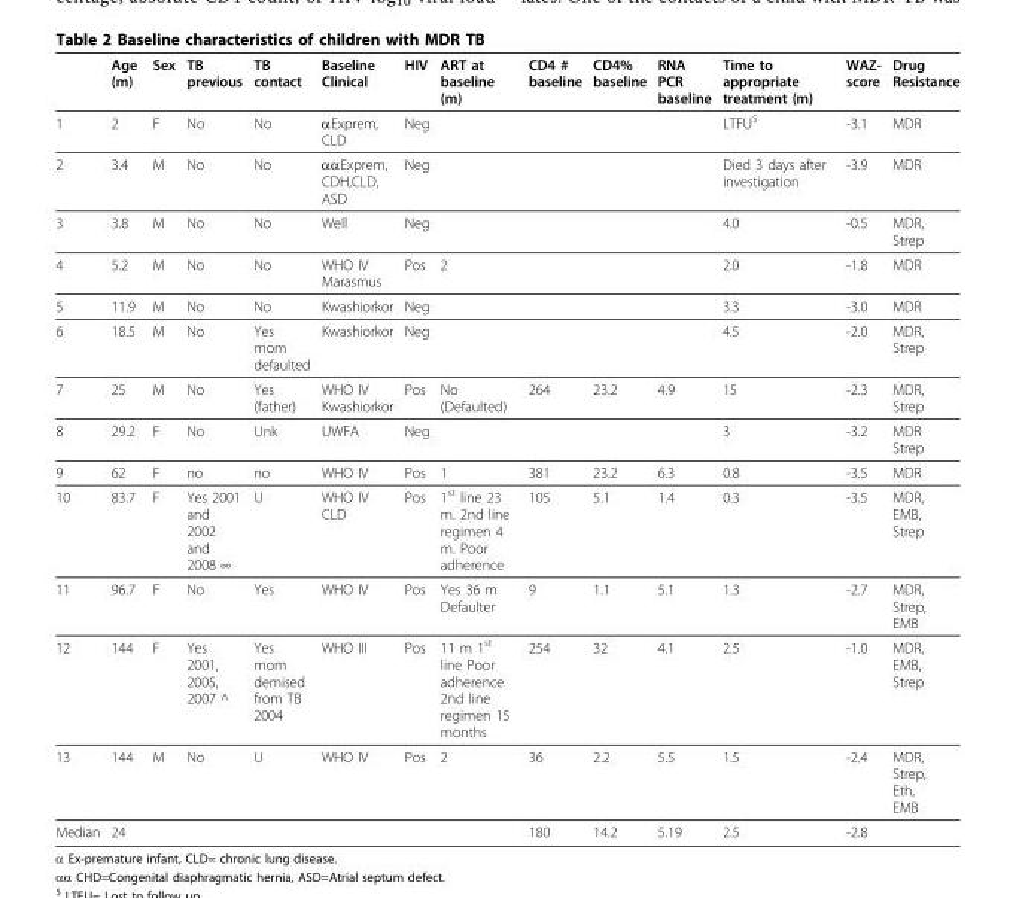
<table><thead><tr><td></td><td>Age (m)</td><td>Sex</td><td>TB previous</td><td>TB contact</td><td>Baseline Clinical</td><td>HIV</td><td>ART at baseline (m)</td><td>CD4 # baseline</td><td>CD4% baseline</td><td>RNA PCR baseline</td><td>Time to appropriate treatment (m)</td><td>WAZ- score</td><td>Drug Resistance</td></tr></thead><tbody><tr><td>1</td><td>2</td><td>F</td><td>No</td><td>No</td><td>αExprem, CLD</td><td>Neg</td><td></td><td></td><td></td><td></td><td>LTFU<sup>$</sup></td><td>-3.1</td><td>MDR</td></tr><tr><td>2</td><td>3.4</td><td>M</td><td>No</td><td>No</td><td>ααExprem, CDH,CLD, ASD</td><td>Neg</td><td></td><td></td><td></td><td></td><td>Died 3 days after investigation</td><td>-3.9</td><td>MDR</td></tr><tr><td>3</td><td>3.8</td><td>M</td><td>No</td><td>No</td><td>Well</td><td>Neg</td><td></td><td></td><td></td><td></td><td>4.0</td><td>-0.5</td><td>MDR, Strep</td></tr><tr><td>4</td><td>5.2</td><td>M</td><td>No</td><td>No</td><td>WHO IV Marasmus</td><td>Pos</td><td>2</td><td></td><td></td><td></td><td>2.0</td><td>-1.8</td><td>MDR</td></tr><tr><td>5</td><td>11.9</td><td>M</td><td>No</td><td>No</td><td>Kwashiorkor</td><td>Neg</td><td></td><td></td><td></td><td></td><td>3.3</td><td>-3.0</td><td>MDR</td></tr><tr><td>6</td><td>18.5</td><td>M</td><td>No</td><td>Yes mom defaulted</td><td>Kwashiorkor</td><td>Neg</td><td></td><td></td><td></td><td></td><td>4.5</td><td>-2.0</td><td>MDR, Strep</td></tr><tr><td>7</td><td>25</td><td>M</td><td>No</td><td>Yes (father)</td><td>WHO IV Kwashiorkor</td><td>Pos</td><td>No (Defaulted)</td><td>264</td><td>23.2</td><td>4.9</td><td>15</td><td>-2.3</td><td>MDR, Strep</td></tr><tr><td>8</td><td>29.2</td><td>F</td><td>No</td><td>Unk</td><td>UWFA</td><td>Neg</td><td></td><td></td><td></td><td></td><td>3</td><td>-3.2</td><td>MDR Strep</td></tr><tr><td>9</td><td>62</td><td>F</td><td>no</td><td>no</td><td>WHO IV</td><td>Pos</td><td>1</td><td>381</td><td>23.2</td><td>6.3</td><td>0.8</td><td>-3.5</td><td>MDR</td></tr><tr><td>10</td><td>83.7</td><td>F</td><td>Yes 2001 and 2002 and 2008 ∞</td><td>U</td><td>WHO IV CLD</td><td>Pos</td><td>1<sup>st</sup> line 23 m. 2nd line regimen 4 m. Poor adherence</td><td>105</td><td>5.1</td><td>1.4</td><td>0.3</td><td>-3.5</td><td>MDR, EMB, Strep</td></tr><tr><td>11</td><td>96.7</td><td>F</td><td>No</td><td>Yes</td><td>WHO IV</td><td>Pos</td><td>Yes 36 m Defaulter</td><td>9</td><td>1.1</td><td>5.1</td><td>1.3</td><td>-2.7</td><td>MDR, Strep, EMB</td></tr><tr><td>12</td><td>144</td><td>F</td><td>Yes 2001, 2005, 2007 ^</td><td>Yes mom demised from TB 2004</td><td>WHO III</td><td>Pos</td><td>11 m 1<sup>st</sup> line Poor adherence 2nd line regimen 15 months</td><td>254</td><td>32</td><td>4.1</td><td>2.5</td><td>-1.0</td><td>MDR, EMB, Strep</td></tr><tr><td>13</td><td>144</td><td>M</td><td>No</td><td>U</td><td>WHO IV</td><td>Pos</td><td>2</td><td>36</td><td>2.2</td><td>5.5</td><td>1.5</td><td>-2.4</td><td>MDR, Strep, Eth, EMB</td></tr><tr><td>Median</td><td>24</td><td></td><td></td><td></td><td></td><td></td><td></td><td>180</td><td>14.2</td><td>5.19</td><td>2.5</td><td>-2.8</td><td></td></tr></tbody></table>